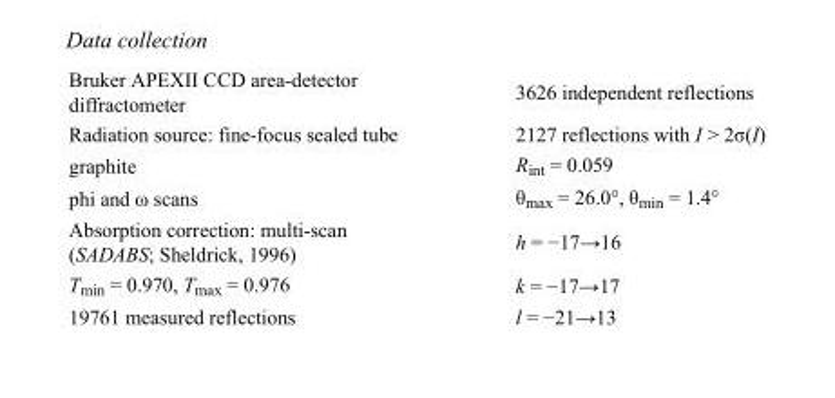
<table><tbody><tr><td>Bruker APEXII CCD area-detector diffractometer</td><td>3626 independent reflections</td></tr><tr><td>Radiation source: fine-focus sealed tube</td><td>2127 reflections with I &gt; 2σ(I)</td></tr><tr><td>graphite</td><td>R<sub>int</sub> = 0.059</td></tr><tr><td>phi and ω scans</td><td>θ<sub>max</sub> = 26.0°, θ<sub>min</sub> = 1.4°</td></tr><tr><td>Absorption correction: multi-scan (SADABS; Sheldrick, 1996)</td><td>h = −17→16</td></tr><tr><td>T<sub>min</sub> = 0.970, T<sub>max</sub> = 0.976</td><td>k = −17→17</td></tr><tr><td>19761 measured reflections</td><td>l = −21→13</td></tr></tbody></table>